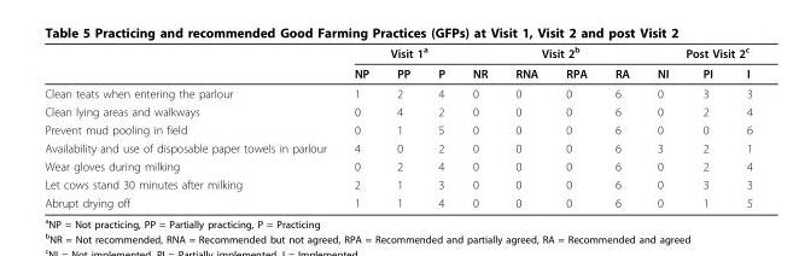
<table><thead><tr><td rowspan="2"></td><td colspan="3">Visit 1<sup>a</sup></td><td colspan="4">Visit 2<sup>b</sup></td><td colspan="3">Post Visit 2<sup>c</sup></td></tr><tr><td>NP</td><td>PP</td><td>P</td><td>NR</td><td>RNA</td><td>RPA</td><td>RA</td><td>NI</td><td>PI</td><td>I</td></tr></thead><tbody><tr><td>Clean teats when entering the parlour</td><td>1</td><td>2</td><td>4</td><td>0</td><td>0</td><td>0</td><td>6</td><td>0</td><td>3</td><td>3</td></tr><tr><td>Clean lying areas and walkways</td><td>0</td><td>4</td><td>2</td><td>0</td><td>0</td><td>0</td><td>6</td><td>0</td><td>2</td><td>4</td></tr><tr><td>Prevent mud pooling in field</td><td>0</td><td>1</td><td>5</td><td>0</td><td>0</td><td>0</td><td>6</td><td>0</td><td>0</td><td>6</td></tr><tr><td>Availability and use of disposable paper towels in parlour</td><td>4</td><td>0</td><td>2</td><td>0</td><td>0</td><td>0</td><td>6</td><td>3</td><td>2</td><td>1</td></tr><tr><td>Wear gloves during milking</td><td>0</td><td>2</td><td>4</td><td>0</td><td>0</td><td>0</td><td>6</td><td>0</td><td>2</td><td>4</td></tr><tr><td>Let cows stand 30 minutes after milking</td><td>2</td><td>1</td><td>3</td><td>0</td><td>0</td><td>0</td><td>6</td><td>0</td><td>3</td><td>3</td></tr><tr><td>Abrupt drying off</td><td>1</td><td>1</td><td>4</td><td>0</td><td>0</td><td>0</td><td>6</td><td>0</td><td>1</td><td>5</td></tr></tbody></table>